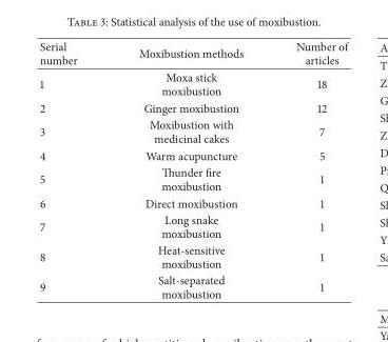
<table><thead><tr><td>Serial number</td><td>Moxibustion methods</td><td>Number of articles</td></tr></thead><tbody><tr><td>1</td><td>Moxa stick moxibustion</td><td>18</td></tr><tr><td>2</td><td>Ginger moxibustion</td><td>12</td></tr><tr><td>3</td><td>Moxibustion with medicinal cakes</td><td>7</td></tr><tr><td>4</td><td>Warm acupuncture</td><td>5</td></tr><tr><td>5</td><td>Thunder fire moxibustion</td><td>1</td></tr><tr><td>6</td><td>Direct moxibustion</td><td>1</td></tr><tr><td>7</td><td>Long snake moxibustion</td><td>1</td></tr><tr><td>8</td><td>Heat-sensitive moxibustion</td><td>1</td></tr><tr><td>9</td><td>Salt-separated moxibustion</td><td>1</td></tr></tbody></table>